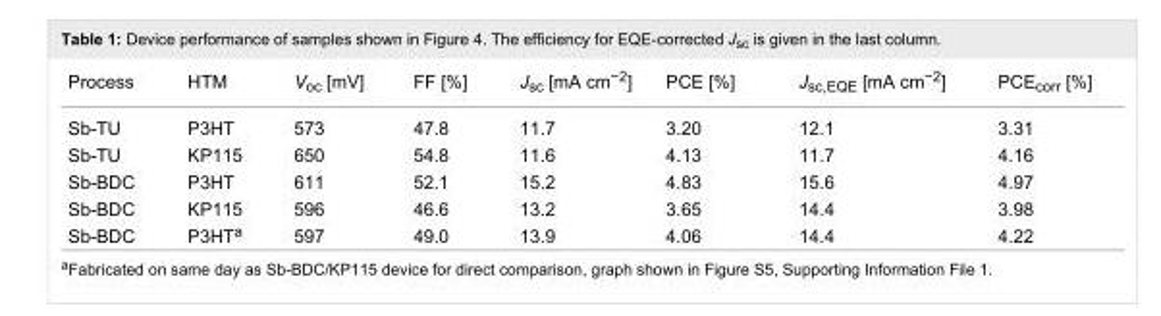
<table><tbody><tr><td>Process</td><td>HTM</td><td>V<sub>oc</sub> [mV]</td><td>FF [%]</td><td>J<sub>sc</sub> [mA cm<sup>−2</sup>]</td><td>PCE [%]</td><td>J<sub>sc,EQE</sub> [mA cm<sup>−2</sup>]</td><td>PCE<sub>corr</sub> [%]</td></tr><tr><td>Sb-TU</td><td>P3HT</td><td>573</td><td>47.8</td><td>11.7</td><td>3.20</td><td>12.1</td><td>3.31</td></tr><tr><td>Sb-TU</td><td>KP115</td><td>650</td><td>54.8</td><td>11.6</td><td>4.13</td><td>11.7</td><td>4.16</td></tr><tr><td>Sb-BDC</td><td>P3HT</td><td>611</td><td>52.1</td><td>15.2</td><td>4.83</td><td>15.6</td><td>4.97</td></tr><tr><td>Sb-BDC</td><td>KP115</td><td>596</td><td>46.6</td><td>13.2</td><td>3.65</td><td>14.4</td><td>3.98</td></tr><tr><td>Sb-BDC</td><td>P3HT<sup>a</sup></td><td>597</td><td>49.0</td><td>13.9</td><td>4.06</td><td>14.4</td><td>4.22</td></tr></tbody></table>